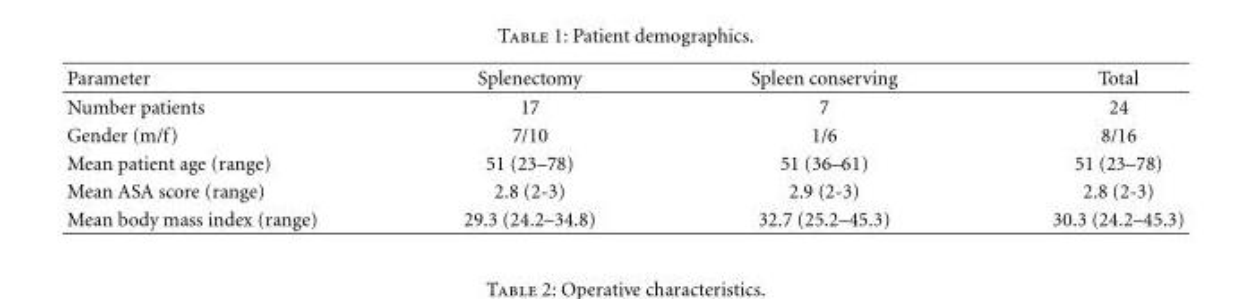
<table><thead><tr><td>Parameter</td><td>Splenectomy</td><td>Spleen conserving</td><td>Total</td></tr></thead><tbody><tr><td>Number patients</td><td>17</td><td>7</td><td>24</td></tr><tr><td>Gender (m/f)</td><td>7/10</td><td>1/6</td><td>8/16</td></tr><tr><td>Mean patient age (range)</td><td>51 (23–78)</td><td>51 (36–61)</td><td>51 (23–78)</td></tr><tr><td>Mean ASA score (range)</td><td>2.8 (2-3)</td><td>2.9 (2-3)</td><td>2.8 (2-3)</td></tr><tr><td>Mean body mass index (range)</td><td>29.3 (24.2–34.8)</td><td>32.7 (25.2–45.3)</td><td>30.3 (24.2–45.3)</td></tr></tbody></table>